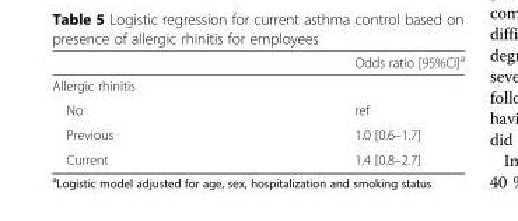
<table><thead><tr><td></td><td>Odds ratio [95%CI]<sup>a</sup></td></tr></thead><tbody><tr><td colspan="2">Allergic rhinitis</td></tr><tr><td>No</td><td>ref</td></tr><tr><td>Previous</td><td>1.0 [0.6–1.7]</td></tr><tr><td>Current</td><td>1.4 [0.8–2.7]</td></tr></tbody></table>